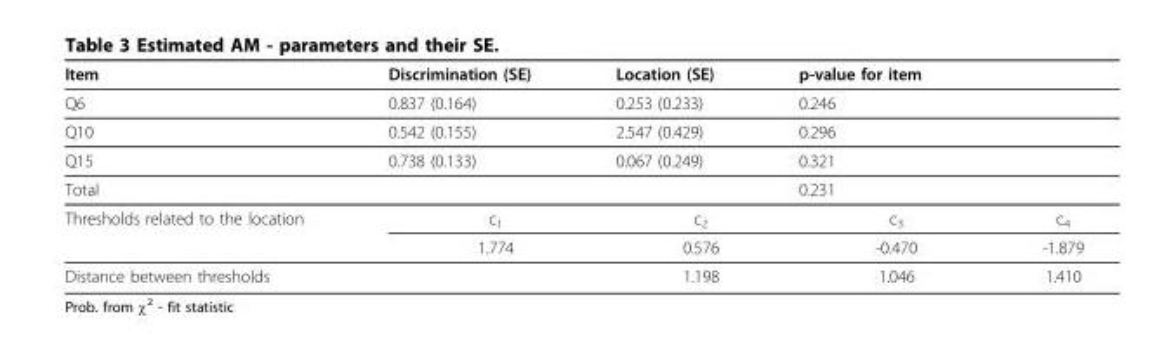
<table><thead><tr><td>Item</td><td>Discrimination (SE)</td><td>Location (SE)</td><td>p-value for item</td><td></td></tr></thead><tbody><tr><td>Q6</td><td>0.837 (0.164)</td><td>0.253 (0.233)</td><td>0.246</td><td></td></tr><tr><td>Q10</td><td>0.542 (0.155)</td><td>2.547 (0.429)</td><td>0.296</td><td></td></tr><tr><td>Q15</td><td>0.738 (0.133)</td><td>0.067 (0.249)</td><td>0.321</td><td></td></tr><tr><td>Total</td><td></td><td></td><td>0.231</td><td></td></tr><tr><td rowspan="2">Thresholds related to the location</td><td>c<sub>1</sub></td><td>c<sub>2</sub></td><td>c<sub>3</sub></td><td>c<sub>4</sub></td></tr><tr><td>1.774</td><td>0.576</td><td>-0.470</td><td>-1.879</td></tr><tr><td>Distance between thresholds</td><td></td><td>1.198</td><td>1.046</td><td>1.410</td></tr></tbody></table>